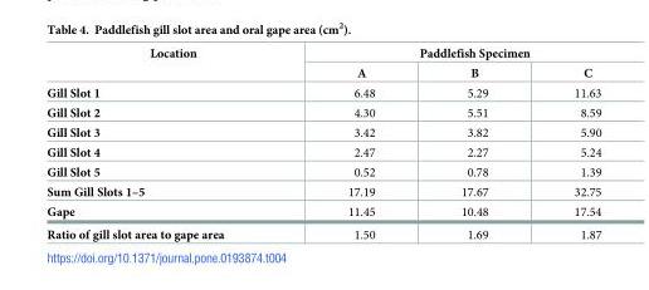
<table><thead><tr><td rowspan="2">Location</td><td colspan="3">Paddlefish Specimen</td></tr><tr><td>A</td><td>B</td><td>C</td></tr></thead><tbody><tr><td>Gill Slot 1</td><td>6.48</td><td>5.29</td><td>11.63</td></tr><tr><td>Gill Slot 2</td><td>4.30</td><td>5.51</td><td>8.59</td></tr><tr><td>Gill Slot 3</td><td>3.42</td><td>3.82</td><td>5.90</td></tr><tr><td>Gill Slot 4</td><td>2.47</td><td>2.27</td><td>5.24</td></tr><tr><td>Gill Slot 5</td><td>0.52</td><td>0.78</td><td>1.39</td></tr><tr><td>Sum Gill Slots 1–5</td><td>17.19</td><td>17.67</td><td>32.75</td></tr><tr><td>Gape</td><td>11.45</td><td>10.48</td><td>17.54</td></tr><tr><td>Ratio of gill slot area to gape area</td><td>1.50</td><td>1.69</td><td>1.87</td></tr></tbody></table>